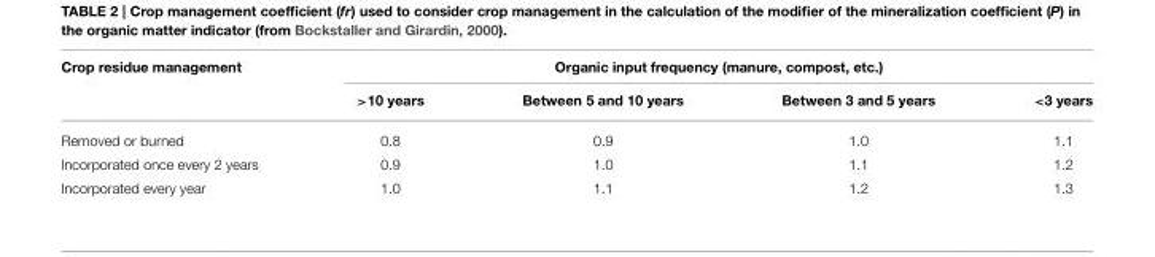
<table><thead><tr><td rowspan="2">Crop residue management</td><td colspan="4">Organic input frequency (manure, compost, etc.)</td></tr><tr><td>&gt;10 years</td><td>Between 5 and 10 years</td><td>Between 3 and 5 years</td><td>&lt;3 years</td></tr></thead><tbody><tr><td>Removed or burned</td><td>0.8</td><td>0.9</td><td>1.0</td><td>1.1</td></tr><tr><td>Incorporated once every 2 years</td><td>0.9</td><td>1.0</td><td>1.1</td><td>1.2</td></tr><tr><td>Incorporated every year</td><td>1.0</td><td>1.1</td><td>1.2</td><td>1.3</td></tr></tbody></table>